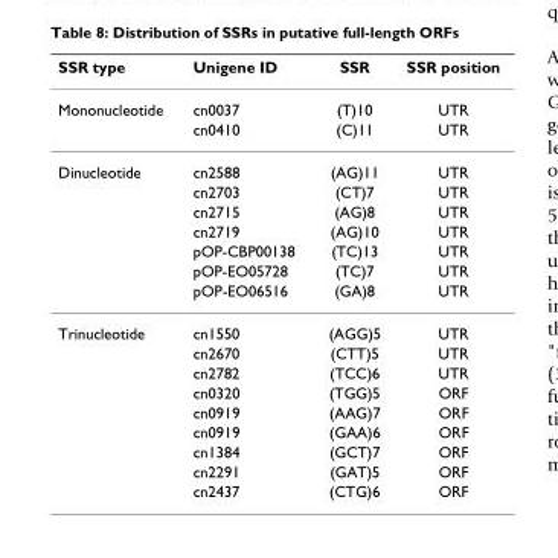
<table><thead><tr><td>SSR type</td><td>Unigene ID</td><td>SSR</td><td>SSR position</td></tr></thead><tbody><tr><td rowspan="2">Mononucleotide</td><td>cn0037</td><td>(T)10</td><td>UTR</td></tr><tr><td>cn0410</td><td>(C)11</td><td>UTR</td></tr><tr><td rowspan="7">Dinucleotide</td><td>cn2588</td><td>(AG)11</td><td>UTR</td></tr><tr><td>cn2703</td><td>(CT)7</td><td>UTR</td></tr><tr><td>cn2715</td><td>(AG)8</td><td>UTR</td></tr><tr><td>cn2719</td><td>(AG)10</td><td>UTR</td></tr><tr><td>pOP-CBP00138</td><td>(TC)13</td><td>UTR</td></tr><tr><td>pOP-EO05728</td><td>(TC)7</td><td>UTR</td></tr><tr><td>pOP-EO06516</td><td>(GA)8</td><td>UTR</td></tr><tr><td rowspan="9">Trinucleotide</td><td>cn1550</td><td>(AGG)5</td><td>UTR</td></tr><tr><td>cn2670</td><td>(CTT)5</td><td>UTR</td></tr><tr><td>cn2782</td><td>(TCC)6</td><td>UTR</td></tr><tr><td>cn0320</td><td>(TGG)5</td><td>ORF</td></tr><tr><td>cn0919</td><td>(AAG)7</td><td>ORF</td></tr><tr><td>cn0919</td><td>(GAA)6</td><td>ORF</td></tr><tr><td>cn1384</td><td>(GCT)7</td><td>ORF</td></tr><tr><td>cn2291</td><td>(GAT)5</td><td>ORF</td></tr><tr><td>cn2437</td><td>(CTG)6</td><td>ORF</td></tr></tbody></table>